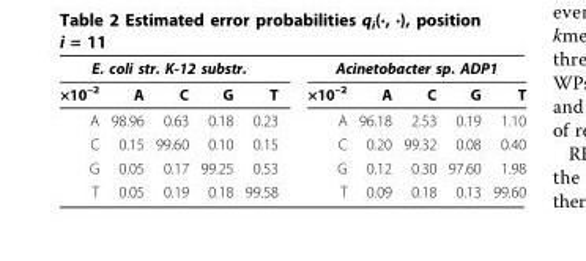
<table><tbody><tr><td colspan="5">E. coli str. K-12 substr.</td><td colspan="5">Acinetobacter sp. ADP1</td></tr><tr><td>×10<sup>–2</sup></td><td>A</td><td>C</td><td>G</td><td>T</td><td>×10<sup>–2</sup></td><td>A</td><td>C</td><td>G</td><td>T</td></tr><tr><td>A</td><td>98.96</td><td>0.63</td><td>0.18</td><td>0.23</td><td>A</td><td>96.18</td><td>2.53</td><td>0.19</td><td>1.10</td></tr><tr><td>C</td><td>0.15</td><td>99.60</td><td>0.10</td><td>0.15</td><td>C</td><td>0.20</td><td>99.32</td><td>0.08</td><td>0.40</td></tr><tr><td>G</td><td>0.05</td><td>0.17</td><td>99.25</td><td>0.53</td><td>G</td><td>0.12</td><td>0.30</td><td>97.60</td><td>1.98</td></tr><tr><td>T</td><td>0.05</td><td>0.19</td><td>0.18</td><td>99.58</td><td>T</td><td>0.09</td><td>0.18</td><td>0.13</td><td>99.60</td></tr></tbody></table>